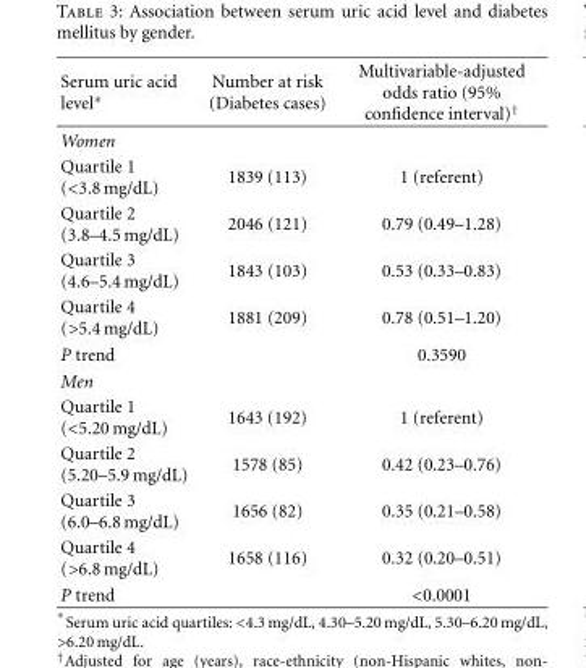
<table><thead><tr><td>Serum uric acid level∗</td><td>Number at risk (Diabetes cases)</td><td>Multivariable-adjusted odds ratio (95% confidence interval)<sup>†</sup></td></tr></thead><tbody><tr><td colspan="3">Women</td></tr><tr><td>Quartile 1 (&lt;3.8 mg/dL)</td><td>1839 (113)</td><td>1 (referent)</td></tr><tr><td>Quartile 2 (3.8–4.5 mg/dL)</td><td>2046 (121)</td><td>0.79 (0.49–1.28)</td></tr><tr><td>Quartile 3 (4.6–5.4 mg/dL)</td><td>1843 (103)</td><td>0.53 (0.33–0.83)</td></tr><tr><td>Quartile 4 (&gt;5.4 mg/dL)</td><td>1881 (209)</td><td>0.78 (0.51–1.20)</td></tr><tr><td>P trend</td><td></td><td>0.3590</td></tr><tr><td colspan="3">Men</td></tr><tr><td>Quartile 1 (&lt;5.20 mg/dL)</td><td>1643 (192)</td><td>1 (referent)</td></tr><tr><td>Quartile 2 (5.20–5.9 mg/dL)</td><td>1578 (85)</td><td>0.42 (0.23–0.76)</td></tr><tr><td>Quartile 3 (6.0–6.8 mg/dL)</td><td>1656 (82)</td><td>0.35 (0.21–0.58)</td></tr><tr><td>Quartile 4 (&gt;6.8 mg/dL)</td><td>1658 (116)</td><td>0.32 (0.20–0.51)</td></tr><tr><td>P trend</td><td></td><td>&lt;0.0001</td></tr></tbody></table>